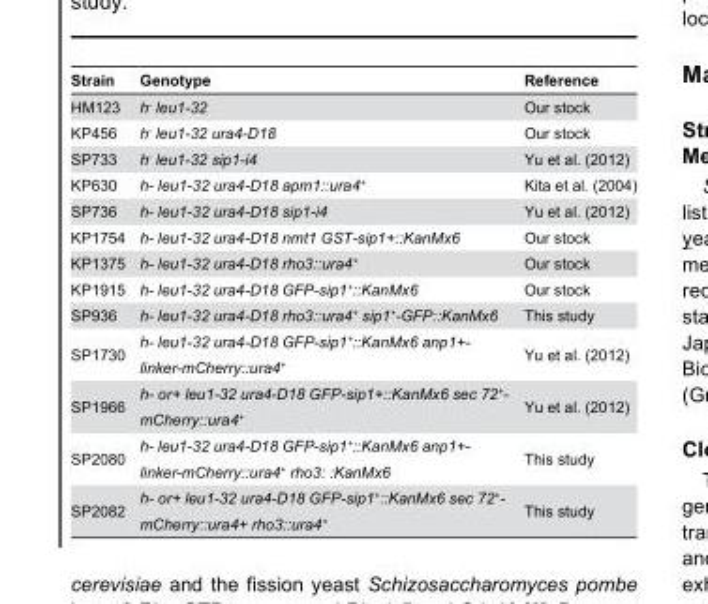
<table><thead><tr><td>Strain</td><td>Genotype</td><td>Reference</td></tr></thead><tbody><tr><td>HM123</td><td>h<sup>-</sup> leu1-32</td><td>Our stock</td></tr><tr><td>KP456</td><td>h<sup>-</sup> leu1-32 ura4-D18</td><td>Our stock</td></tr><tr><td>SP733</td><td>h<sup>-</sup> leu1-32 sip1-i4</td><td>Yu et al. (2012)</td></tr><tr><td>KP630</td><td>h- leu1-32 ura4-D18 apm1::ura4<sup>+</sup></td><td>Kita et al. (2004)</td></tr><tr><td>SP736</td><td>h- leu1-32 ura4-D18 sip1-i4</td><td>Yu et al. (2012)</td></tr><tr><td>KP1754</td><td>h- leu1-32 ura4-D18 nmt1 GST-sip1+::KanMx6</td><td>Our stock</td></tr><tr><td>KP1375</td><td>h- leu1-32 ura4-D18 rho3::ura4<sup>+</sup></td><td>Our stock</td></tr><tr><td>KP1915</td><td>h- leu1-32 ura4-D18 GFP-sip1<sup>+</sup>::KanMx6</td><td>Our stock</td></tr><tr><td>SP936</td><td>h- leu1-32 ura4-D18 rho3::ura4<sup>+</sup> sip1<sup>+</sup>-GFP::KanMx6</td><td>This study</td></tr><tr><td>SP1730</td><td>h- leu1-32 ura4-D18 GFP-sip1<sup>+</sup>::KanMx6 anp1+- linker-mCherry::ura4<sup>+</sup></td><td>Yu et al. (2012)</td></tr><tr><td>SP1966</td><td>h- or+ leu1-32 ura4-D18 GFP-sip1+::KanMx6 sec 72<sup>+</sup>- mCherry::ura4<sup>+</sup></td><td>Yu et al. (2012)</td></tr><tr><td>SP2080</td><td>h- leu1-32 ura4-D18 GFP-sip1<sup>+</sup>::KanMx6 anp1+- linker-mCherry::ura4<sup>+</sup> rho3: :KanMx6</td><td>This study</td></tr><tr><td>SP2082</td><td>h- or+ leu1-32 ura4-D18 GFP-sip1<sup>+</sup>::KanMx6 sec 72<sup>+</sup>- mCherry::ura4+ rho3::ura4<sup>+</sup></td><td>This study</td></tr></tbody></table>